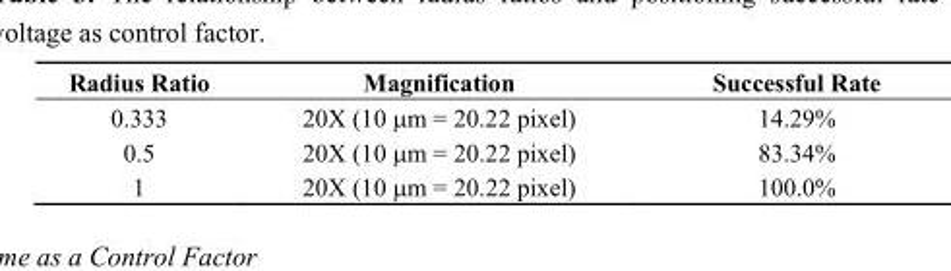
<table><thead><tr><td>Radius Ratio</td><td>Magnification</td><td>Successful Rate</td></tr></thead><tbody><tr><td>0.333</td><td>20X (10 μm = 20.22 pixel)</td><td>14.29%</td></tr><tr><td>0.5</td><td>20X (10 μm = 20.22 pixel)</td><td>83.34%</td></tr><tr><td>1</td><td>20X (10 μm = 20.22 pixel)</td><td>100.0%</td></tr></tbody></table>